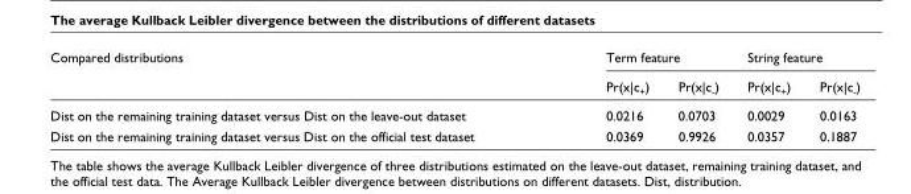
<table><thead><tr><td rowspan="2">Compared distributions</td><td colspan="2">Term feature</td><td colspan="2">String feature</td></tr><tr><td>Pr(x|c<sub>+</sub>)</td><td>Pr(x|c<sub>-</sub>)</td><td>Pr(x|c<sub>+</sub>)</td><td>Pr(x|c<sub>-</sub>)</td></tr></thead><tbody><tr><td>Dist on the remaining training dataset versus Dist on the leave-out dataset</td><td>0.0216</td><td>0.0703</td><td>0.0029</td><td>0.0163</td></tr><tr><td>Dist on the remaining training dataset versus Dist on the official test dataset</td><td>0.0369</td><td>0.9926</td><td>0.0357</td><td>0.1887</td></tr></tbody></table>